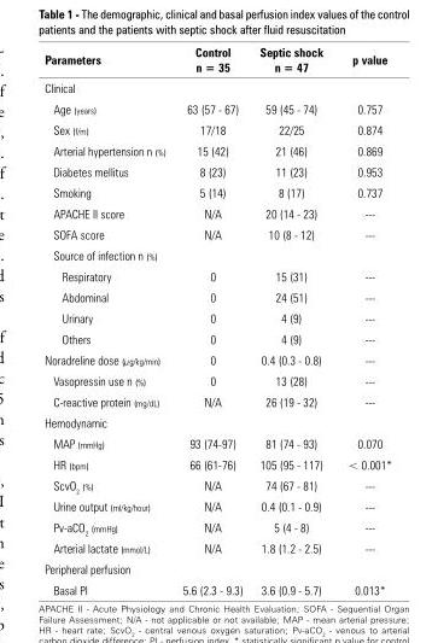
<table><thead><tr><td>Parameters</td><td>Control n = 35</td><td>Septic shock n = 47</td><td>p value</td></tr></thead><tbody><tr><td colspan="4">Clinical</td></tr><tr><td>Age (years)</td><td>63 (57 - 67)</td><td>59 (45 - 74)</td><td>0.757</td></tr><tr><td>Sex (f/m)</td><td>17/18</td><td>22/25</td><td>0.874</td></tr><tr><td>Arterial hypertension n (%)</td><td>15 (42)</td><td>21 (46)</td><td>0.869</td></tr><tr><td>Diabetes mellitus</td><td>8 (23)</td><td>11 (23)</td><td>0.953</td></tr><tr><td>Smoking</td><td>5 (14)</td><td>8 (17)</td><td>0.737</td></tr><tr><td>APACHE II score</td><td>N/A</td><td>20 (14 - 23)</td><td>---</td></tr><tr><td>SOFA score</td><td>N/A</td><td>10 (8 - 12)</td><td>---</td></tr><tr><td colspan="4">Source of infection n (%)</td></tr><tr><td>Respiratory</td><td>0</td><td>15 (31)</td><td>---</td></tr><tr><td>Abdominal</td><td>0</td><td>24 (51)</td><td>---</td></tr><tr><td>Urinary</td><td>0</td><td>4 (9)</td><td>---</td></tr><tr><td>Others</td><td>0</td><td>4 (9)</td><td>---</td></tr><tr><td>Noradreline dose (µg/kg/min)</td><td>0</td><td>0.4 (0.3 - 0.8)</td><td>---</td></tr><tr><td>Vasopressin use n (%)</td><td>0</td><td>13 (28)</td><td>---</td></tr><tr><td>C-reactive protein (mg/dL)</td><td>N/A</td><td>26 (19 - 32)</td><td>---</td></tr><tr><td colspan="4">Hemodynamic</td></tr><tr><td>MAP (mmHg)</td><td>93 (74-97)</td><td>81 (74 - 93)</td><td>0.070</td></tr><tr><td>HR (bpm)</td><td>66 (61-76)</td><td>105 (95 - 117)</td><td>&lt; 0.001*</td></tr><tr><td>ScvO<sub>2</sub> (%)</td><td>N/A</td><td>74 (67 - 81)</td><td>---</td></tr><tr><td>Urine output (ml/kg/hour)</td><td>N/A</td><td>0.4 (0.1 - 0.9)</td><td>---</td></tr><tr><td>Pv-aCO<sub>2</sub> (mmHg)</td><td>N/A</td><td>5 (4 - 8)</td><td>---</td></tr><tr><td>Arterial lactate (mmol/L)</td><td>N/A</td><td>1.8 (1.2 - 2.5)</td><td>---</td></tr><tr><td colspan="4">Peripheral perfusion</td></tr><tr><td>Basal PI</td><td>5.6 (2.3 - 9.3)</td><td>3.6 (0.9 - 5.7)</td><td>0.013*</td></tr></tbody></table>